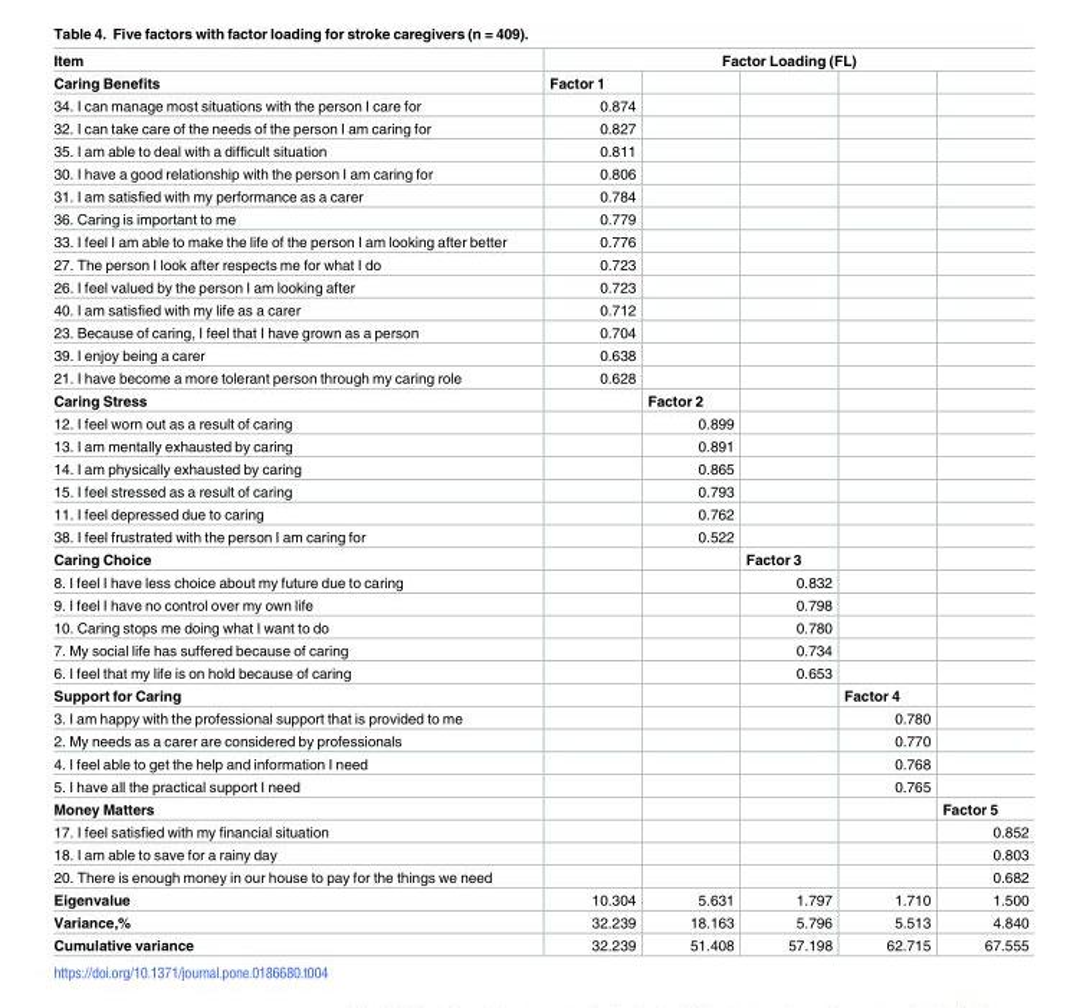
<table><thead><tr><td rowspan="2">Item Caring Benefits</td><td colspan="5">Factor Loading (FL)</td></tr><tr><td>Factor 1</td><td></td><td></td><td></td><td></td></tr></thead><tbody><tr><td>34. I can manage most situations with the person I care for</td><td>0.874</td><td></td><td></td><td></td><td></td></tr><tr><td>32. I can take care of the needs of the person I am caring for</td><td>0.827</td><td></td><td></td><td></td><td></td></tr><tr><td>35. I am able to deal with a difficult situation</td><td>0.811</td><td></td><td></td><td></td><td></td></tr><tr><td>30. I have a good relationship with the person I am caring for</td><td>0.806</td><td></td><td></td><td></td><td></td></tr><tr><td>31. I am satisfied with my performance as a carer</td><td>0.784</td><td></td><td></td><td></td><td></td></tr><tr><td>36. Caring is important to me</td><td>0.779</td><td></td><td></td><td></td><td></td></tr><tr><td>33. I feel I am able to make the life of the person I am looking after better</td><td>0.776</td><td></td><td></td><td></td><td></td></tr><tr><td>27. The person I look after respects me for what I do</td><td>0.723</td><td></td><td></td><td></td><td></td></tr><tr><td>26. I feel valued by the person I am looking after</td><td>0.723</td><td></td><td></td><td></td><td></td></tr><tr><td>40. I am satisfied with my life as a carer</td><td>0.712</td><td></td><td></td><td></td><td></td></tr><tr><td>23. Because of caring, I feel that I have grown as a person</td><td>0.704</td><td></td><td></td><td></td><td></td></tr><tr><td>39. I enjoy being a carer</td><td>0.638</td><td></td><td></td><td></td><td></td></tr><tr><td>21. I have become a more tolerant person through my caring role</td><td>0.628</td><td></td><td></td><td></td><td></td></tr><tr><td>Caring Stress</td><td></td><td>Factor 2</td><td></td><td></td><td></td></tr><tr><td>12. I feel worn out as a result of caring</td><td></td><td>0.899</td><td></td><td></td><td></td></tr><tr><td>13. I am mentally exhausted by caring</td><td></td><td>0.891</td><td></td><td></td><td></td></tr><tr><td>14. I am physically exhausted by caring</td><td></td><td>0.865</td><td></td><td></td><td></td></tr><tr><td>15. I feel stressed as a result of caring</td><td></td><td>0.793</td><td></td><td></td><td></td></tr><tr><td>11. I feel depressed due to caring</td><td></td><td>0.762</td><td></td><td></td><td></td></tr><tr><td>38. I feel frustrated with the person I am caring for</td><td></td><td>0.522</td><td></td><td></td><td></td></tr><tr><td>Caring Choice</td><td></td><td></td><td>Factor 3</td><td></td><td></td></tr><tr><td>8. I feel I have less choice about my future due to caring</td><td></td><td></td><td>0.832</td><td></td><td></td></tr><tr><td>9. I feel I have no control over my own life</td><td></td><td></td><td>0.798</td><td></td><td></td></tr><tr><td>10. Caring stops me doing what I want to do</td><td></td><td></td><td>0.780</td><td></td><td></td></tr><tr><td>7. My social life has suffered because of caring</td><td></td><td></td><td>0.734</td><td></td><td></td></tr><tr><td>6. I feel that my life is on hold because of caring</td><td></td><td></td><td>0.653</td><td></td><td></td></tr><tr><td>Support for Caring</td><td></td><td></td><td></td><td>Factor 4</td><td></td></tr><tr><td>3. I am happy with the professional support that is provided to me</td><td></td><td></td><td></td><td>0.780</td><td></td></tr><tr><td>2. My needs as a carer are considered by professionals</td><td></td><td></td><td></td><td>0.770</td><td></td></tr><tr><td>4. I feel able to get the help and information I need</td><td></td><td></td><td></td><td>0.768</td><td></td></tr><tr><td>5. I have all the practical support I need</td><td></td><td></td><td></td><td>0.765</td><td></td></tr><tr><td>Money Matters</td><td></td><td></td><td></td><td></td><td>Factor 5</td></tr><tr><td>17. I feel satisfied with my financial situation</td><td></td><td></td><td></td><td></td><td>0.852</td></tr><tr><td>18. I am able to save for a rainy day</td><td></td><td></td><td></td><td></td><td>0.803</td></tr><tr><td>20. There is enough money in our house to pay for the things we need</td><td></td><td></td><td></td><td></td><td>0.682</td></tr><tr><td>Eigenvalue</td><td>10.304</td><td>5.631</td><td>1.797</td><td>1.710</td><td>1.500</td></tr><tr><td>Variance,%</td><td>32.239</td><td>18.163</td><td>5.796</td><td>5.513</td><td>4.840</td></tr><tr><td>Cumulative variance</td><td>32.239</td><td>51.408</td><td>57.198</td><td>62.715</td><td>67.555</td></tr></tbody></table>